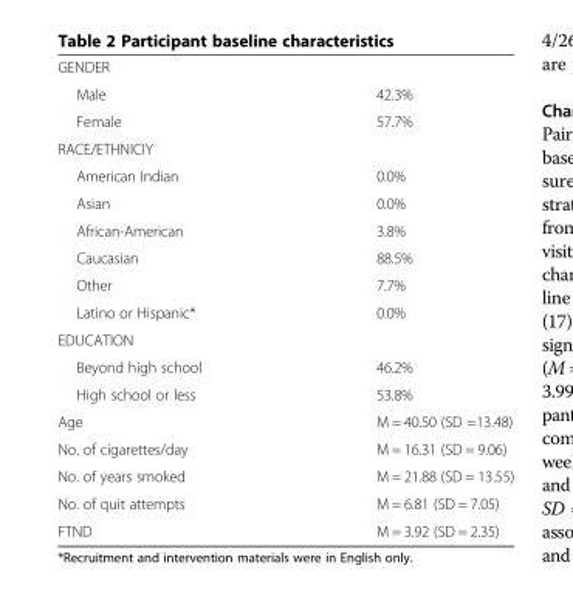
<table><tbody><tr><td colspan="2">GENDER</td></tr><tr><td>Male</td><td>42.3%</td></tr><tr><td>Female</td><td>57.7%</td></tr><tr><td colspan="2">RACE/ETHNICIY</td></tr><tr><td>American Indian</td><td>0.0%</td></tr><tr><td>Asian</td><td>0.0%</td></tr><tr><td>African-American</td><td>3.8%</td></tr><tr><td>Caucasian</td><td>88.5%</td></tr><tr><td>Other</td><td>7.7%</td></tr><tr><td>Latino or Hispanic*</td><td>0.0%</td></tr><tr><td colspan="2">EDUCATION</td></tr><tr><td>Beyond high school</td><td>46.2%</td></tr><tr><td>High school or less</td><td>53.8%</td></tr><tr><td>Age</td><td>M = 40.50 (SD =13.48)</td></tr><tr><td>No. of cigarettes/day</td><td>M = 16.31 (SD = 9.06)</td></tr><tr><td>No. of years smoked</td><td>M = 21.88 (SD = 13.55)</td></tr><tr><td>No. of quit attempts</td><td>M = 6.81 (SD = 7.05)</td></tr><tr><td>FTND</td><td>M = 3.92 (SD = 2.35)</td></tr></tbody></table>